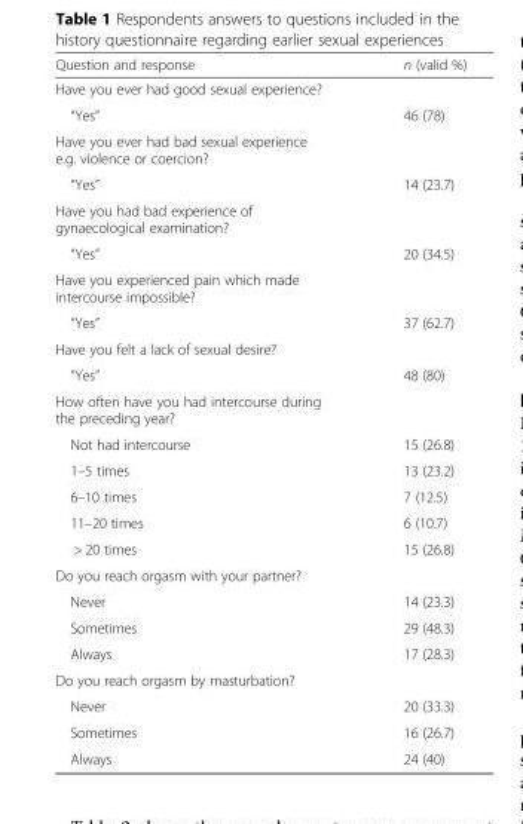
<table><thead><tr><td>Question and response</td><td>n (valid %)</td></tr></thead><tbody><tr><td colspan="2">Have you ever had good sexual experience?</td></tr><tr><td>“Yes”</td><td>46 (78)</td></tr><tr><td colspan="2">Have you ever had bad sexual experience e.g. violence or coercion?</td></tr><tr><td>“Yes”</td><td>14 (23.7)</td></tr><tr><td colspan="2">Have you had bad experience of gynaecological examination?</td></tr><tr><td>“Yes”</td><td>20 (34.5)</td></tr><tr><td colspan="2">Have you experienced pain which made intercourse impossible?</td></tr><tr><td>“Yes”</td><td>37 (62.7)</td></tr><tr><td colspan="2">Have you felt a lack of sexual desire?</td></tr><tr><td>“Yes”</td><td>48 (80)</td></tr><tr><td colspan="2">How often have you had intercourse during the preceding year?</td></tr><tr><td>Not had intercourse</td><td>15 (26.8)</td></tr><tr><td>1–5 times</td><td>13 (23.2)</td></tr><tr><td>6–10 times</td><td>7 (12.5)</td></tr><tr><td>11–20 times</td><td>6 (10.7)</td></tr><tr><td>&gt; 20 times</td><td>15 (26.8)</td></tr><tr><td colspan="2">Do you reach orgasm with your partner?</td></tr><tr><td>Never</td><td>14 (23.3)</td></tr><tr><td>Sometimes</td><td>29 (48.3)</td></tr><tr><td>Always</td><td>17 (28.3)</td></tr><tr><td colspan="2">Do you reach orgasm by masturbation?</td></tr><tr><td>Never</td><td>20 (33.3)</td></tr><tr><td>Sometimes</td><td>16 (26.7)</td></tr><tr><td>Always</td><td>24 (40)</td></tr></tbody></table>